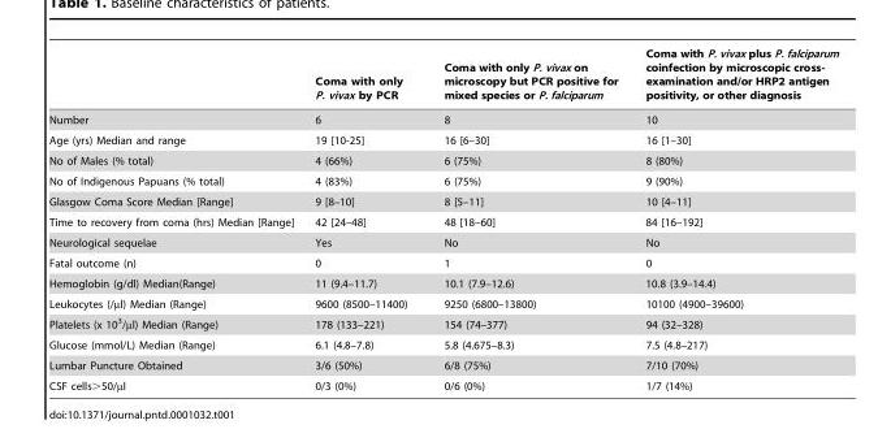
<table><thead><tr><td></td><td>Coma with only P. vivax by PCR</td><td>Coma with only P. vivax on microscopy but PCR positive for mixed species or P. falciparum</td><td>Coma with P. vivax plus P. falciparum coinfection by microscopic cross- examination and/or HRP2 antigen positivity, or other diagnosis</td></tr></thead><tbody><tr><td>Number</td><td>6</td><td>8</td><td>10</td></tr><tr><td>Age (yrs) Median and range</td><td>19 [10-25]</td><td>16 [6–30]</td><td>16 [1–30]</td></tr><tr><td>No of Males (% total)</td><td>4 (66%)</td><td>6 (75%)</td><td>8 (80%)</td></tr><tr><td>No of Indigenous Papuans (% total)</td><td>4 (83%)</td><td>6 (75%)</td><td>9 (90%)</td></tr><tr><td>Glasgow Coma Score Median [Range]</td><td>9 [8–10]</td><td>8 [5–11]</td><td>10 [4–11]</td></tr><tr><td>Time to recovery from coma (hrs) Median [Range]</td><td>42 [24–48]</td><td>48 [18–60]</td><td>84 [16–192]</td></tr><tr><td>Neurological sequelae</td><td>Yes</td><td>No</td><td>No</td></tr><tr><td>Fatal outcome (n)</td><td>0</td><td>1</td><td>0</td></tr><tr><td>Hemoglobin (g/dl) Median(Range)</td><td>11 (9.4–11.7)</td><td>10.1 (7.9–12.6)</td><td>10.8 (3.9–14.4)</td></tr><tr><td>Leukocytes (/µl) Median (Range)</td><td>9600 (8500–11400)</td><td>9250 (6800–13800)</td><td>10100 (4900–39600)</td></tr><tr><td>Platelets (x 10<sup>3</sup>/µl) Median (Range)</td><td>178 (133–221)</td><td>154 (74–377)</td><td>94 (32–328)</td></tr><tr><td>Glucose (mmol/L) Median (Range)</td><td>6.1 (4.8–7.8)</td><td>5.8 (4.675–8.3)</td><td>7.5 (4.8–217)</td></tr><tr><td>Lumbar Puncture Obtained</td><td>3/6 (50%)</td><td>6/8 (75%)</td><td>7/10 (70%)</td></tr><tr><td>CSF cells&gt;50/µl</td><td>0/3 (0%)</td><td>0/6 (0%)</td><td>1/7 (14%)</td></tr></tbody></table>